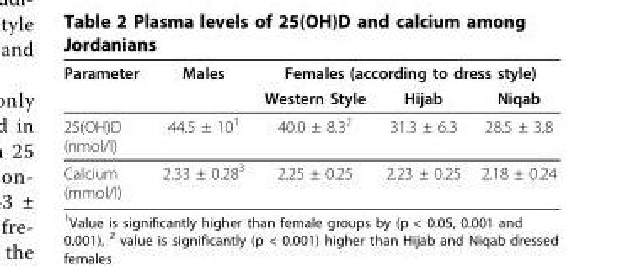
<table><thead><tr><td rowspan="2">Parameter</td><td rowspan="2">Males</td><td colspan="3">Females (according to dress style)</td></tr><tr><td>Western Style</td><td>Hijab</td><td>Niqab</td></tr></thead><tbody><tr><td>25(OH)D (nmol/l)</td><td>44.5 ± 10<sup>1</sup></td><td>40.0 ± 8.3<sup>2</sup></td><td>31.3 ± 6.3</td><td>28.5 ± 3.8</td></tr><tr><td>Calcium (mmol/l)</td><td>2.33 ± 0.28<sup>3</sup></td><td>2.25 ± 0.25</td><td>2.23 ± 0.25</td><td>2.18 ± 0.24</td></tr></tbody></table>